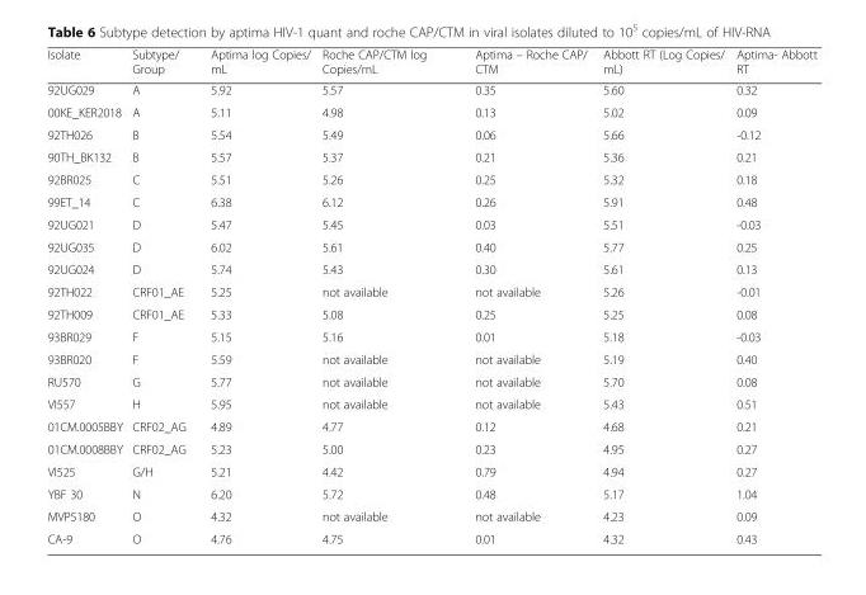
<table><thead><tr><td>Isolate</td><td>Subtype/ Group</td><td>Aptima log Copies/ mL</td><td>Roche CAP/CTM log Copies/mL</td><td>Aptima – Roche CAP/ CTM</td><td>Abbott RT (Log Copies/ mL)</td><td>Aptima- Abbott RT</td></tr></thead><tbody><tr><td>92UG029</td><td>A</td><td>5.92</td><td>5.57</td><td>0.35</td><td>5.60</td><td>0.32</td></tr><tr><td>00KE_KER2018</td><td>A</td><td>5.11</td><td>4.98</td><td>0.13</td><td>5.02</td><td>0.09</td></tr><tr><td>92TH026</td><td>B</td><td>5.54</td><td>5.49</td><td>0.06</td><td>5.66</td><td>-0.12</td></tr><tr><td>90TH_BK132</td><td>B</td><td>5.57</td><td>5.37</td><td>0.21</td><td>5.36</td><td>0.21</td></tr><tr><td>92BR025</td><td>C</td><td>5.51</td><td>5.26</td><td>0.25</td><td>5.32</td><td>0.18</td></tr><tr><td>99ET_14</td><td>C</td><td>6.38</td><td>6.12</td><td>0.26</td><td>5.91</td><td>0.48</td></tr><tr><td>92UG021</td><td>D</td><td>5.47</td><td>5.45</td><td>0.03</td><td>5.51</td><td>-0.03</td></tr><tr><td>92UG035</td><td>D</td><td>6.02</td><td>5.61</td><td>0.40</td><td>5.77</td><td>0.25</td></tr><tr><td>92UG024</td><td>D</td><td>5.74</td><td>5.43</td><td>0.30</td><td>5.61</td><td>0.13</td></tr><tr><td>92TH022</td><td>CRF01_AE</td><td>5.25</td><td>not available</td><td>not available</td><td>5.26</td><td>-0.01</td></tr><tr><td>92TH009</td><td>CRF01_AE</td><td>5.33</td><td>5.08</td><td>0.25</td><td>5.25</td><td>0.08</td></tr><tr><td>93BR029</td><td>F</td><td>5.15</td><td>5.16</td><td>0.01</td><td>5.18</td><td>-0.03</td></tr><tr><td>93BR020</td><td>F</td><td>5.59</td><td>not available</td><td>not available</td><td>5.19</td><td>0.40</td></tr><tr><td>RU570</td><td>G</td><td>5.77</td><td>not available</td><td>not available</td><td>5.70</td><td>0.08</td></tr><tr><td>VI557</td><td>H</td><td>5.95</td><td>not available</td><td>not available</td><td>5.43</td><td>0.51</td></tr><tr><td>01CM.0005BBY</td><td>CRF02_AG</td><td>4.89</td><td>4.77</td><td>0.12</td><td>4.68</td><td>0.21</td></tr><tr><td>01CM.0008BBY</td><td>CRF02_AG</td><td>5.23</td><td>5.00</td><td>0.23</td><td>4.95</td><td>0.27</td></tr><tr><td>VI525</td><td>G/H</td><td>5.21</td><td>4.42</td><td>0.79</td><td>4.94</td><td>0.27</td></tr><tr><td>YBF 30</td><td>N</td><td>6.20</td><td>5.72</td><td>0.48</td><td>5.17</td><td>1.04</td></tr><tr><td>MVP5180</td><td>O</td><td>4.32</td><td>not available</td><td>not available</td><td>4.23</td><td>0.09</td></tr><tr><td>CA-9</td><td>O</td><td>4.76</td><td>4.75</td><td>0.01</td><td>4.32</td><td>0.43</td></tr></tbody></table>